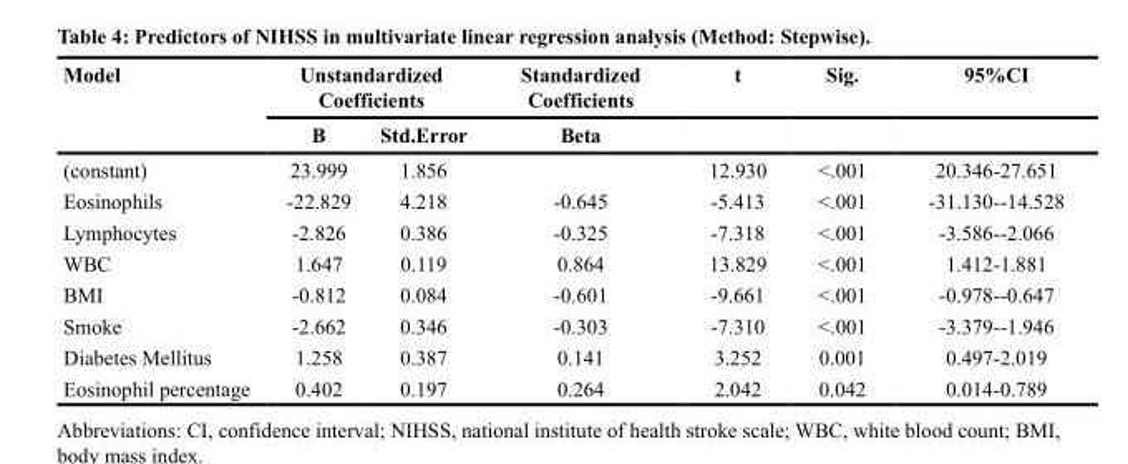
<table><thead><tr><td rowspan="2">Model</td><td colspan="2">Unstandardized Coefficients</td><td rowspan="2">Standardized Coefficients Beta</td><td rowspan="2">t</td><td rowspan="2">Sig.</td><td rowspan="2">95%CI</td></tr><tr><td>B</td><td>Std.Error</td></tr></thead><tbody><tr><td>(constant)</td><td>23.999</td><td>1.856</td><td></td><td>12.930</td><td>&lt;.001</td><td>20.346-27.651</td></tr><tr><td>Eosinophils</td><td>-22.829</td><td>4.218</td><td>-0.645</td><td>-5.413</td><td>&lt;.001</td><td>-31.130--14.528</td></tr><tr><td>Lymphocytes</td><td>-2.826</td><td>0.386</td><td>-0.325</td><td>-7.318</td><td>&lt;.001</td><td>-3.586--2.066</td></tr><tr><td>WBC</td><td>1.647</td><td>0.119</td><td>0.864</td><td>13.829</td><td>&lt;.001</td><td>1.412-1.881</td></tr><tr><td>BMI</td><td>-0.812</td><td>0.084</td><td>-0.601</td><td>-9.661</td><td>&lt;.001</td><td>-0.978--0.647</td></tr><tr><td>Smoke</td><td>-2.662</td><td>0.346</td><td>-0.303</td><td>-7.310</td><td>&lt;.001</td><td>-3.379--1.946</td></tr><tr><td>Diabetes Mellitus</td><td>1.258</td><td>0.387</td><td>0.141</td><td>3.252</td><td>0.001</td><td>0.497-2.019</td></tr><tr><td>Eosinophil percentage</td><td>0.402</td><td>0.197</td><td>0.264</td><td>2.042</td><td>0.042</td><td>0.014-0.789</td></tr></tbody></table>